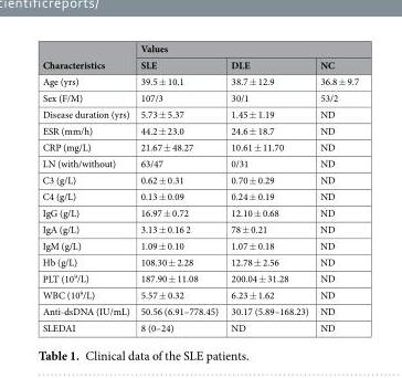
<table><thead><tr><td rowspan="2">Characteristics</td><td colspan="3">Values</td></tr><tr><td>SLE</td><td>DLE</td><td>NC</td></tr></thead><tbody><tr><td>Age (yrs)</td><td>39.5 ± 10.1</td><td>38.7 ± 12.9</td><td>36.8 ± 9.7</td></tr><tr><td>Sex (F/M)</td><td>107/3</td><td>30/1</td><td>53/2</td></tr><tr><td>Disease duration (yrs)</td><td>5.73 ± 5.37</td><td>1.45 ± 1.19</td><td>ND</td></tr><tr><td>ESR (mm/h)</td><td>44.2 ± 23.0</td><td>24.6 ± 18.7</td><td>ND</td></tr><tr><td>CRP (mg/L)</td><td>21.67 ± 48.27</td><td>10.61 ± 11.70</td><td>ND</td></tr><tr><td>LN (with/without)</td><td>63/47</td><td>0/31</td><td>ND</td></tr><tr><td>C3 (g/L)</td><td>0.62 ± 0.31</td><td>0.70 ± 0.29</td><td>ND</td></tr><tr><td>C4 (g/L)</td><td>0.13 ± 0.09</td><td>0.24 ± 0.19</td><td>ND</td></tr><tr><td>IgG (g/L)</td><td>16.97 ± 0.72</td><td>12.10 ± 0.68</td><td>ND</td></tr><tr><td>IgA (g/L)</td><td>3.13 ± 0.16 2</td><td>78 ± 0.21</td><td>ND</td></tr><tr><td>IgM (g/L)</td><td>1.09 ± 0.10</td><td>1.07 ± 0.18</td><td>ND</td></tr><tr><td>Hb (g/L)</td><td>108.30 ± 2.28</td><td>12.78 ± 2.56</td><td>ND</td></tr><tr><td>PLT (10<sup>9</sup>/L)</td><td>187.90 ± 11.08</td><td>200.04 ± 31.28</td><td>ND</td></tr><tr><td>WBC (10<sup>9</sup>/L)</td><td>5.57 ± 0.32</td><td>6.23 ± 1.62</td><td>ND</td></tr><tr><td>Anti-dsDNA (IU/mL)</td><td>50.56 (6.91–778.45)</td><td>30.17 (5.89–168.23)</td><td>ND</td></tr><tr><td>SLEDAI</td><td>8 (0–24)</td><td>ND</td><td>ND</td></tr></tbody></table>